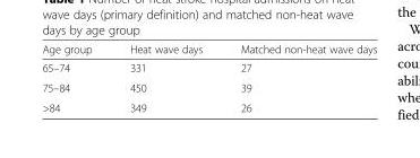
<table><thead><tr><td>Age group</td><td>Heat wave days</td><td>Matched non-heat wave days</td></tr></thead><tbody><tr><td>65–74</td><td>331</td><td>27</td></tr><tr><td>75–84</td><td>450</td><td>39</td></tr><tr><td>&gt;84</td><td>349</td><td>26</td></tr></tbody></table>